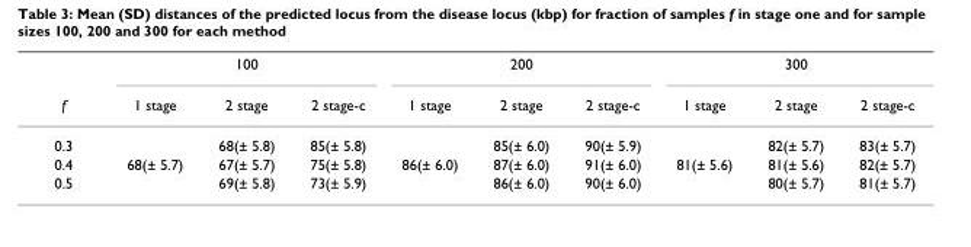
<table><thead><tr><td rowspan="2">f</td><td colspan="3">100</td><td colspan="3">200</td><td colspan="3">300</td></tr><tr><td>1 stage</td><td>2 stage</td><td>2 stage-c</td><td>1 stage</td><td>2 stage</td><td>2 stage-c</td><td>1 stage</td><td>2 stage</td><td>2 stage-c</td></tr></thead><tbody><tr><td>0.3</td><td></td><td>68(± 5.8)</td><td>85(± 5.8)</td><td></td><td>85(± 6.0)</td><td>90(± 5.9)</td><td></td><td>82(± 5.7)</td><td>83(± 5.7)</td></tr><tr><td>0.4</td><td>68(± 5.7)</td><td>67(± 5.7)</td><td>75(± 5.8)</td><td>86(± 6.0)</td><td>87(± 6.0)</td><td>91(± 6.0)</td><td>81(± 5.6)</td><td>81(± 5.6)</td><td>82(± 5.7)</td></tr><tr><td>0.5</td><td></td><td>69(± 5.8)</td><td>73(± 5.9)</td><td></td><td>86(± 6.0)</td><td>90(± 6.0)</td><td></td><td>80(± 5.7)</td><td>81(± 5.7)</td></tr></tbody></table>